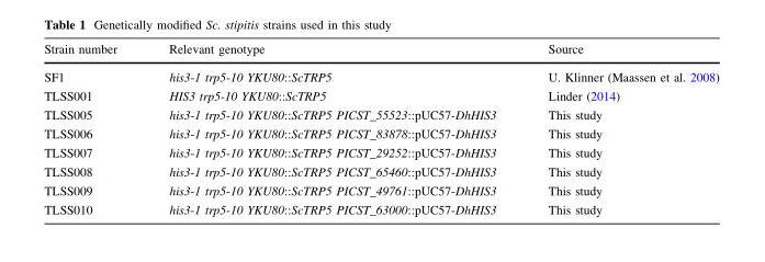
<table><thead><tr><td>Strain number</td><td>Relevant genotype</td><td>Source</td></tr></thead><tbody><tr><td>SF1</td><td>his3-1 trp5-10 YKU80::ScTRP5</td><td>U. Klinner (Maassen et al. 2008)</td></tr><tr><td>TLSS001</td><td>HIS3 trp5-10 YKU80::ScTRP5</td><td>Linder (2014)</td></tr><tr><td>TLSS005</td><td>his3-1 trp5-10 YKU80::ScTRP5 PICST_55523::pUC57-DhHIS3</td><td>This study</td></tr><tr><td>TLSS006</td><td>his3-1 trp5-10 YKU80::ScTRP5 PICST_83878::pUC57-DhHIS3</td><td>This study</td></tr><tr><td>TLSS007</td><td>his3-1 trp5-10 YKU80::ScTRP5 PICST_29252::pUC57-DhHIS3</td><td>This study</td></tr><tr><td>TLSS008</td><td>his3-1 trp5-10 YKU80::ScTRP5 PICST_65460::pUC57-DhHIS3</td><td>This study</td></tr><tr><td>TLSS009</td><td>his3-1 trp5-10 YKU80::ScTRP5 PICST_49761::pUC57-DhHIS3</td><td>This study</td></tr><tr><td>TLSS010</td><td>his3-1 trp5-10 YKU80::ScTRP5 PICST_63000::pUC57-DhHIS3</td><td>This study</td></tr></tbody></table>